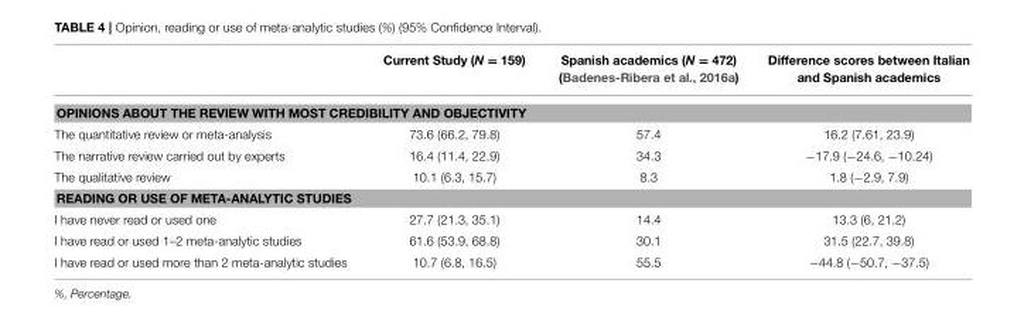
<table><thead><tr><td></td><td>Current Study (N = 159)</td><td>Spanish academics (N = 472) (Badenes-Ribera et al., 2016a)</td><td>Difference scores between Italian and Spanish academics</td></tr></thead><tbody><tr><td colspan="4">OPINIONS ABOUT THE REVIEW WITH MOST CREDIBILITY AND OBJECTIVITY</td></tr><tr><td>The quantitative review or meta-analysis</td><td>73.6 (66.2, 79.8)</td><td>57.4</td><td>16.2 (7.61, 23.9)</td></tr><tr><td>The narrative review carried out by experts</td><td>16.4 (11.4, 22.9)</td><td>34.3</td><td>−17.9 (−24.6, −10.24)</td></tr><tr><td>The qualitative review</td><td>10.1 (6.3, 15.7)</td><td>8.3</td><td>1.8 (−2.9, 7.9)</td></tr><tr><td colspan="4">READING OR USE OF META-ANALYTIC STUDIES</td></tr><tr><td>I have never read or used one</td><td>27.7 (21.3, 35.1)</td><td>14.4</td><td>13.3 (6, 21.2)</td></tr><tr><td>I have read or used 1–2 meta-analytic studies</td><td>61.6 (53.9, 68.8)</td><td>30.1</td><td>31.5 (22.7, 39.8)</td></tr><tr><td>I have read or used more than 2 meta-analytic studies</td><td>10.7 (6.8, 16.5)</td><td>55.5</td><td>−44.8 (−50.7, −37.5)</td></tr></tbody></table>